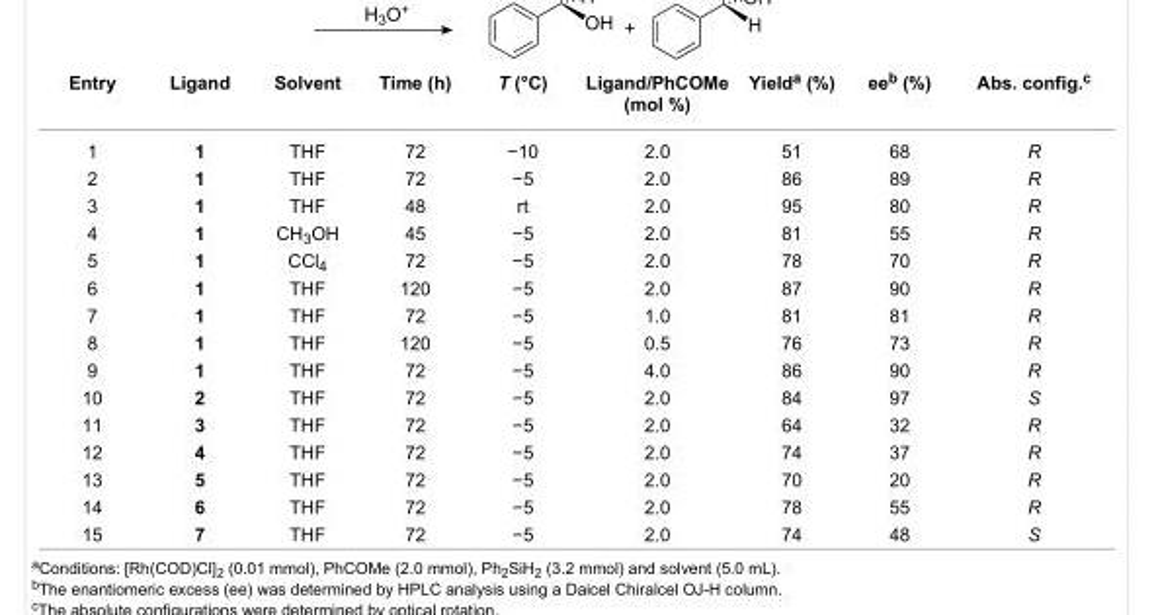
<table><tbody><tr><td>Entry</td><td>Ligand</td><td>Solvent</td><td>Time (h)</td><td>T (°C)</td><td>Ligand/PhCOMe (mol %)</td><td>Yield<sup>a</sup> (%)</td><td>ee<sup>b</sup> (%)</td><td>Abs. config.<sup>c</sup></td></tr><tr><td>1</td><td>1</td><td>THF</td><td>72</td><td>−10</td><td>2.0</td><td>51</td><td>68</td><td>R</td></tr><tr><td>2</td><td>1</td><td>THF</td><td>72</td><td>−5</td><td>2.0</td><td>86</td><td>89</td><td>R</td></tr><tr><td>3</td><td>1</td><td>THF</td><td>48</td><td>rt</td><td>2.0</td><td>95</td><td>80</td><td>R</td></tr><tr><td>4</td><td>1</td><td>CH<sub>3</sub>OH</td><td>45</td><td>−5</td><td>2.0</td><td>81</td><td>55</td><td>R</td></tr><tr><td>5</td><td>1</td><td>CCl<sub>4</sub></td><td>72</td><td>−5</td><td>2.0</td><td>78</td><td>70</td><td>R</td></tr><tr><td>6</td><td>1</td><td>THF</td><td>120</td><td>−5</td><td>2.0</td><td>87</td><td>90</td><td>R</td></tr><tr><td>7</td><td>1</td><td>THF</td><td>72</td><td>−5</td><td>1.0</td><td>81</td><td>81</td><td>R</td></tr><tr><td>8</td><td>1</td><td>THF</td><td>120</td><td>−5</td><td>0.5</td><td>76</td><td>73</td><td>R</td></tr><tr><td>9</td><td>1</td><td>THF</td><td>72</td><td>−5</td><td>4.0</td><td>86</td><td>90</td><td>R</td></tr><tr><td>10</td><td>2</td><td>THF</td><td>72</td><td>−5</td><td>2.0</td><td>84</td><td>97</td><td>S</td></tr><tr><td>11</td><td>3</td><td>THF</td><td>72</td><td>−5</td><td>2.0</td><td>64</td><td>32</td><td>R</td></tr><tr><td>12</td><td>4</td><td>THF</td><td>72</td><td>−5</td><td>2.0</td><td>74</td><td>37</td><td>R</td></tr><tr><td>13</td><td>5</td><td>THF</td><td>72</td><td>−5</td><td>2.0</td><td>70</td><td>20</td><td>R</td></tr><tr><td>14</td><td>6</td><td>THF</td><td>72</td><td>−5</td><td>2.0</td><td>78</td><td>55</td><td>R</td></tr><tr><td>15</td><td>7</td><td>THF</td><td>72</td><td>−5</td><td>2.0</td><td>74</td><td>48</td><td>S</td></tr></tbody></table>